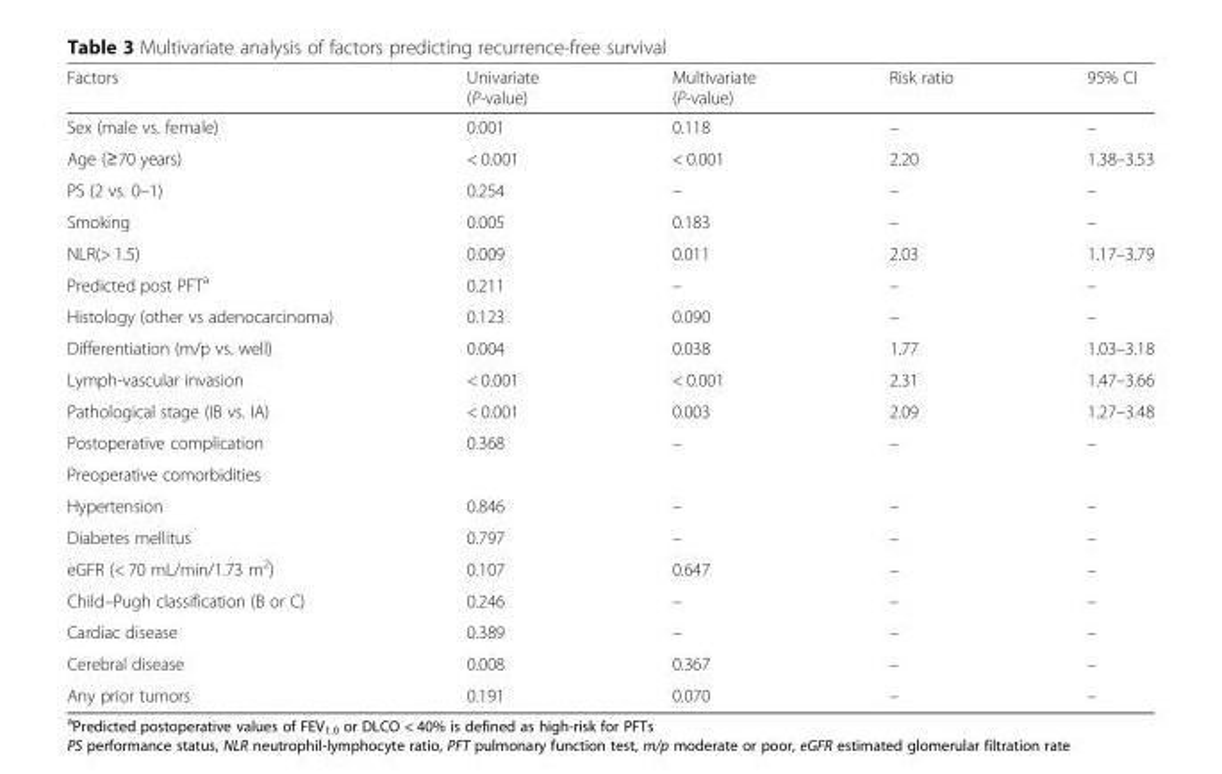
<table><thead><tr><td>Factors</td><td>Univariate (P-value)</td><td>Multivariate (P-value)</td><td>Risk ratio</td><td>95% CI</td></tr></thead><tbody><tr><td>Sex (male vs. female)</td><td>0.001</td><td>0.118</td><td>–</td><td>–</td></tr><tr><td>Age (≥70 years)</td><td>&lt; 0.001</td><td>&lt; 0.001</td><td>2.20</td><td>1.38–3.53</td></tr><tr><td>PS (2 vs. 0–1)</td><td>0.254</td><td>–</td><td>–</td><td>–</td></tr><tr><td>Smoking</td><td>0.005</td><td>0.183</td><td>–</td><td>–</td></tr><tr><td>NLR(&gt; 1.5)</td><td>0.009</td><td>0.011</td><td>2.03</td><td>1.17–3.79</td></tr><tr><td>Predicted post PFT<sup>a</sup></td><td>0.211</td><td>–</td><td>–</td><td>–</td></tr><tr><td>Histology (other vs adenocarcinoma)</td><td>0.123</td><td>0.090</td><td>–</td><td>–</td></tr><tr><td>Differentiation (m/p vs. well)</td><td>0.004</td><td>0.038</td><td>1.77</td><td>1.03–3.18</td></tr><tr><td>Lymph-vascular invasion</td><td>&lt; 0.001</td><td>&lt; 0.001</td><td>2.31</td><td>1.47–3.66</td></tr><tr><td>Pathological stage (IB vs. IA)</td><td>&lt; 0.001</td><td>0.003</td><td>2.09</td><td>1.27–3.48</td></tr><tr><td>Postoperative complication</td><td>0.368</td><td>–</td><td>–</td><td>–</td></tr><tr><td colspan="5">Preoperative comorbidities</td></tr><tr><td>Hypertension</td><td>0.846</td><td>–</td><td>–</td><td>–</td></tr><tr><td>Diabetes mellitus</td><td>0.797</td><td>–</td><td>–</td><td>–</td></tr><tr><td>eGFR (&lt; 70 mL/min/1.73 m<sup>2</sup>)</td><td>0.107</td><td>0.647</td><td>–</td><td>–</td></tr><tr><td>Child–Pugh classification (B or C)</td><td>0.246</td><td>–</td><td>–</td><td>–</td></tr><tr><td>Cardiac disease</td><td>0.389</td><td>–</td><td>–</td><td>–</td></tr><tr><td>Cerebral disease</td><td>0.008</td><td>0.367</td><td>–</td><td>–</td></tr><tr><td>Any prior tumors</td><td>0.191</td><td>0.070</td><td>–</td><td>–</td></tr></tbody></table>